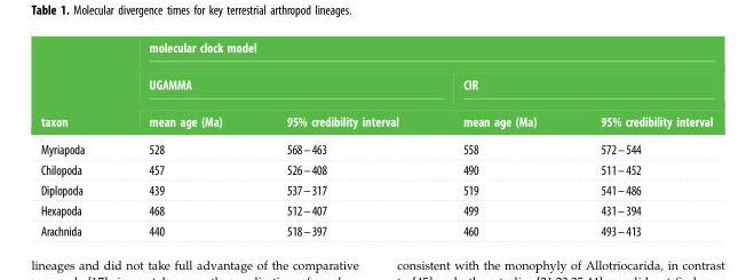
<table><thead><tr><td rowspan="3">taxon</td><td colspan="4">molecular clock model</td></tr><tr><td colspan="2">UGAMMA</td><td colspan="2">CIR</td></tr><tr><td>mean age (Ma)</td><td>95% credibility interval</td><td>mean age (Ma)</td><td>95% credibility interval</td></tr></thead><tbody><tr><td>Myriapoda</td><td>528</td><td>568–463</td><td>558</td><td>572–544</td></tr><tr><td>Chilopoda</td><td>457</td><td>526–408</td><td>490</td><td>511–452</td></tr><tr><td>Diplopoda</td><td>439</td><td>537–317</td><td>519</td><td>541–486</td></tr><tr><td>Hexapoda</td><td>468</td><td>512–407</td><td>499</td><td>431–394</td></tr><tr><td>Arachnida</td><td>440</td><td>518–397</td><td>460</td><td>493–413</td></tr></tbody></table>